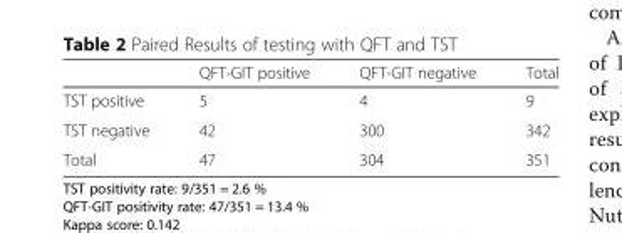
<table><thead><tr><td></td><td>QFT-GIT positive</td><td>QFT-GIT negative</td><td>Total</td></tr></thead><tbody><tr><td>TST positive</td><td>5</td><td>4</td><td>9</td></tr><tr><td>TST negative</td><td>42</td><td>300</td><td>342</td></tr><tr><td>Total</td><td>47</td><td>304</td><td>351</td></tr></tbody></table>